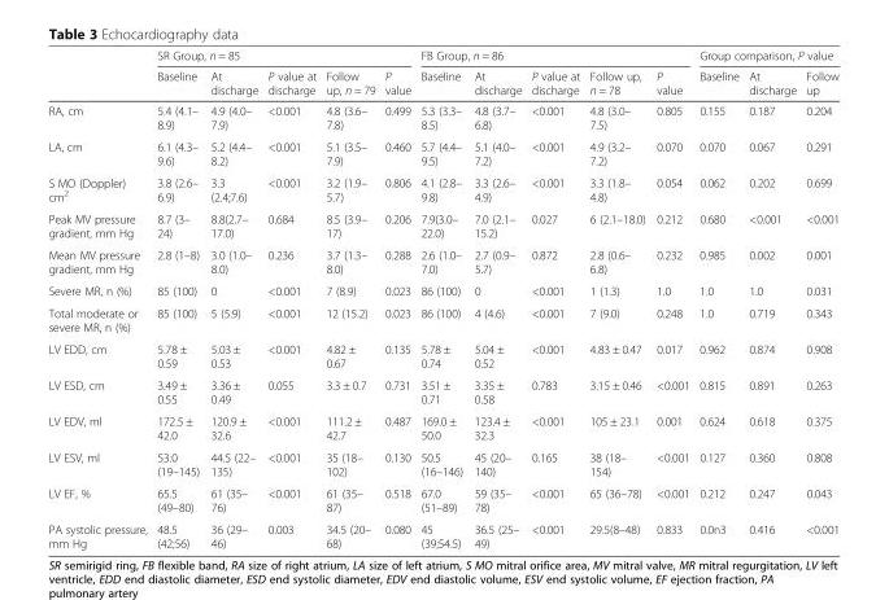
<table><thead><tr><td rowspan="2"></td><td colspan="5">SR Group, n = 85</td><td colspan="5">FB Group, n = 86</td><td colspan="3">Group comparison, P value</td></tr><tr><td>Baseline</td><td>At discharge</td><td>Р value at discharge</td><td>Follow up, n = 79</td><td>P value</td><td>Baseline</td><td>At discharge</td><td>P value at discharge</td><td>Follow up, n = 78</td><td>P value</td><td>Baseline</td><td>At discharge</td><td>Follow up</td></tr></thead><tbody><tr><td>RA, cm</td><td>5.4 (4.1– 8.9)</td><td>4.9 (4.0– 7.9)</td><td>&lt;0.001</td><td>4.8 (3.6– 7.8)</td><td>0.499</td><td>5.3 (3.3– 8.5)</td><td>4.8 (3.7– 6.8)</td><td>&lt;0.001</td><td>4.8 (3.0– 7.5)</td><td>0.805</td><td>0.155</td><td>0.187</td><td>0.204</td></tr><tr><td>LA, cm</td><td>6.1 (4.3– 9.6)</td><td>5.2 (4.4– 8.2)</td><td>&lt;0.001</td><td>5.1 (3.5– 7.9)</td><td>0.460</td><td>5.7 (4.4– 9.5)</td><td>5.1 (4.0– 7.2)</td><td>&lt;0.001</td><td>4.9 (3.2– 7.2)</td><td>0.070</td><td>0.070</td><td>0.067</td><td>0.291</td></tr><tr><td>S МО (Doppler) cm<sup>2</sup></td><td>3.8 (2.6– 6.9)</td><td>3.3 (2.4;7.6)</td><td>&lt;0.001</td><td>3.2 (1.9– 5.7)</td><td>0.806</td><td>4.1 (2.8– 9.8)</td><td>3.3 (2.6– 4.9)</td><td>&lt;0.001</td><td>3.3 (1.8– 4.8)</td><td>0.054</td><td>0.062</td><td>0.202</td><td>0.699</td></tr><tr><td>Peak MV pressure gradient, mm Hg</td><td>8.7 (3– 24)</td><td>8.8(2.7– 17.0)</td><td>0.684</td><td>8.5 (3.9– 17)</td><td>0.206</td><td>7.9(3.0– 22.0)</td><td>7.0 (2.1– 15.2)</td><td>0.027</td><td>6 (2.1–18.0)</td><td>0.212</td><td>0.680</td><td>&lt;0.001</td><td>&lt;0.001</td></tr><tr><td>Mean MV pressure gradient, mm Hg</td><td>2.8 (1–8)</td><td>3.0 (1.0– 8.0)</td><td>0.236</td><td>3.7 (1.3– 8.0)</td><td>0.288</td><td>2.6 (1.0– 7.0)</td><td>2.7 (0.9– 5.7)</td><td>0.872</td><td>2.8 (0.6– 6.8)</td><td>0.232</td><td>0.985</td><td>0.002</td><td>0.001</td></tr><tr><td>Severe MR, n (%)</td><td>85 (100)</td><td>0</td><td>&lt;0.001</td><td>7 (8.9)</td><td>0.023</td><td>86 (100)</td><td>0</td><td>&lt;0.001</td><td>1 (1.3)</td><td>1.0</td><td>1.0</td><td>1.0</td><td>0.031</td></tr><tr><td>Total moderate or severe MR, n (%)</td><td>85 (100)</td><td>5 (5.9)</td><td>&lt;0.001</td><td>12 (15.2)</td><td>0.023</td><td>86 (100)</td><td>4 (4.6)</td><td>&lt;0.001</td><td>7 (9.0)</td><td>0.248</td><td>1.0</td><td>0.719</td><td>0.343</td></tr><tr><td>LV EDD, cm</td><td>5.78 ± 0.59</td><td>5.03 ± 0.53</td><td>&lt;0.001</td><td>4.82 ± 0.67</td><td>0.135</td><td>5.78 ± 0.74</td><td>5.04 ± 0.52</td><td>&lt;0.001</td><td>4.83 ± 0.47</td><td>0.017</td><td>0.962</td><td>0.874</td><td>0.908</td></tr><tr><td>LV ESD, cm</td><td>3.49 ± 0.55</td><td>3.36 ± 0.49</td><td>0.055</td><td>3.3 ± 0.7</td><td>0.731</td><td>3.51 ± 0.71</td><td>3.35 ± 0.58</td><td>0.783</td><td>3.15 ± 0.46</td><td>&lt;0.001</td><td>0.815</td><td>0.891</td><td>0.263</td></tr><tr><td>LV EDV, ml</td><td>172.5 ± 42.0</td><td>120.9 ± 32.6</td><td>&lt;0.001</td><td>111.2 ± 42.7</td><td>0.487</td><td>169.0 ± 50.0</td><td>123.4 ± 32.3</td><td>&lt;0.001</td><td>105 ± 23.1</td><td>0.001</td><td>0.624</td><td>0.618</td><td>0.375</td></tr><tr><td>LV ESV, ml</td><td>53.0 (19–145)</td><td>44.5 (22– 135)</td><td>&lt;0.001</td><td>35 (18– 102)</td><td>0.130</td><td>50.5 (16–146)</td><td>45 (20– 140)</td><td>0.165</td><td>38 (18– 154)</td><td>&lt;0.001</td><td>0.127</td><td>0.360</td><td>0.808</td></tr><tr><td>LV EF, %</td><td>65.5 (49–80)</td><td>61 (35– 76)</td><td>&lt;0.001</td><td>61 (35– 87)</td><td>0.518</td><td>67.0 (51–89)</td><td>59 (35– 78)</td><td>&lt;0.001</td><td>65 (36–78)</td><td>&lt;0.001</td><td>0.212</td><td>0.247</td><td>0.043</td></tr><tr><td>PA systolic pressure, mm Hg</td><td>48.5 (42;56)</td><td>36 (29– 46)</td><td>0.003</td><td>34.5 (20– 68)</td><td>0.080</td><td>45 (39;54.5)</td><td>36.5 (25– 49)</td><td>&lt;0.001</td><td>29.5(8–48)</td><td>0.833</td><td>0.0n3</td><td>0.416</td><td>&lt;0.001</td></tr></tbody></table>